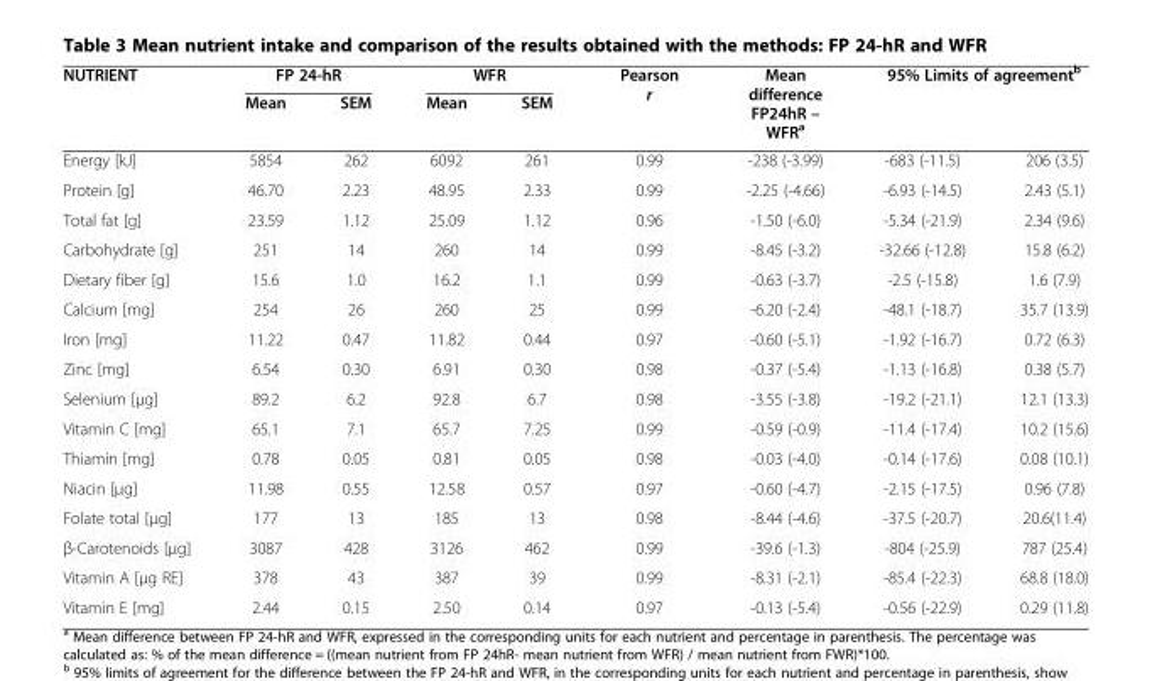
<table><thead><tr><td rowspan="3">NUTRIENT Energy [kJ]</td><td colspan="2">FP 24-hR</td><td colspan="2">WFR</td><td rowspan="3">Pearson r 0.99</td><td rowspan="3">Mean difference FP24hR – WFR<sup>a</sup> -238 (-3.99)</td><td rowspan="2" colspan="2">95% Limits of agreement<sup>b</sup></td></tr><tr><td rowspan="2">Mean 5854</td><td rowspan="2">SEM 262</td><td rowspan="2">Mean 6092</td><td rowspan="2">SEM 261</td></tr><tr><td>-683 (-11.5)</td><td>206 (3.5)</td></tr></thead><tbody><tr><td>Protein [g]</td><td>46.70</td><td>2.23</td><td>48.95</td><td>2.33</td><td>0.99</td><td>-2.25 (-4.66)</td><td>-6.93 (-14.5)</td><td>2.43 (5.1)</td></tr><tr><td>Total fat [g]</td><td>23.59</td><td>1.12</td><td>25.09</td><td>1.12</td><td>0.96</td><td>-1.50 (-6.0)</td><td>-5.34 (-21.9)</td><td>2.34 (9.6)</td></tr><tr><td>Carbohydrate [g]</td><td>251</td><td>14</td><td>260</td><td>14</td><td>0.99</td><td>-8.45 (-3.2)</td><td>-32.66 (-12.8)</td><td>15.8 (6.2)</td></tr><tr><td>Dietary fiber [g]</td><td>15.6</td><td>1.0</td><td>16.2</td><td>1.1</td><td>0.99</td><td>-0.63 (-3.7)</td><td>-2.5 (-15.8)</td><td>1.6 (7.9)</td></tr><tr><td>Calcium [mg]</td><td>254</td><td>26</td><td>260</td><td>25</td><td>0.99</td><td>-6.20 (-2.4)</td><td>-48.1 (-18.7)</td><td>35.7 (13.9)</td></tr><tr><td>Iron [mg]</td><td>11.22</td><td>0.47</td><td>11.82</td><td>0.44</td><td>0.97</td><td>-0.60 (-5.1)</td><td>-1.92 (-16.7)</td><td>0.72 (6.3)</td></tr><tr><td>Zinc [mg]</td><td>6.54</td><td>0.30</td><td>6.91</td><td>0.30</td><td>0.98</td><td>-0.37 (-5.4)</td><td>-1.13 (-16.8)</td><td>0.38 (5.7)</td></tr><tr><td>Selenium [μg]</td><td>89.2</td><td>6.2</td><td>92.8</td><td>6.7</td><td>0.98</td><td>-3.55 (-3.8)</td><td>-19.2 (-21.1)</td><td>12.1 (13.3)</td></tr><tr><td>Vitamin C [mg]</td><td>65.1</td><td>7.1</td><td>65.7</td><td>7.25</td><td>0.99</td><td>-0.59 (-0.9)</td><td>-11.4 (-17.4)</td><td>10.2 (15.6)</td></tr><tr><td>Thiamin [mg]</td><td>0.78</td><td>0.05</td><td>0.81</td><td>0.05</td><td>0.98</td><td>-0.03 (-4.0)</td><td>-0.14 (-17.6)</td><td>0.08 (10.1)</td></tr><tr><td>Niacin [μg]</td><td>11.98</td><td>0.55</td><td>12.58</td><td>0.57</td><td>0.97</td><td>-0.60 (-4.7)</td><td>-2.15 (-17.5)</td><td>0.96 (7.8)</td></tr><tr><td>Folate total [μg]</td><td>177</td><td>13</td><td>185</td><td>13</td><td>0.98</td><td>-8.44 (-4.6)</td><td>-37.5 (-20.7)</td><td>20.6(11.4)</td></tr><tr><td>β-Carotenoids [μg]</td><td>3087</td><td>428</td><td>3126</td><td>462</td><td>0.99</td><td>-39.6 (-1.3)</td><td>-804 (-25.9)</td><td>787 (25.4)</td></tr><tr><td>Vitamin A [μg RE]</td><td>378</td><td>43</td><td>387</td><td>39</td><td>0.99</td><td>-8.31 (-2.1)</td><td>-85.4 (-22.3)</td><td>68.8 (18.0)</td></tr><tr><td>Vitamin E [mg]</td><td>2.44</td><td>0.15</td><td>2.50</td><td>0.14</td><td>0.97</td><td>-0.13 (-5.4)</td><td>-0.56 (-22.9)</td><td>0.29 (11.8)</td></tr></tbody></table>